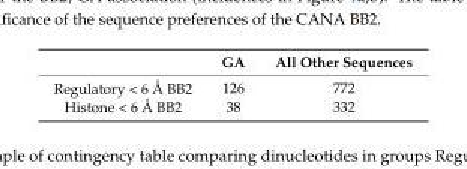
<table><thead><tr><td></td><td>GA</td><td>All Other Sequences</td></tr></thead><tbody><tr><td>Regulatory &lt; 6 Å BB2</td><td>126</td><td>772</td></tr><tr><td>Histone &lt; 6 Å BB2</td><td>38</td><td>332</td></tr></tbody></table>